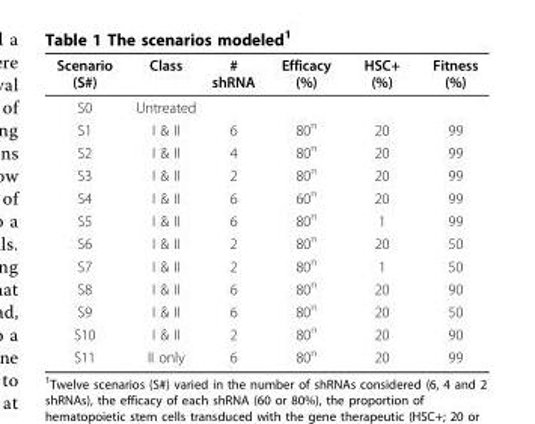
<table><thead><tr><td>Scenario (S#)</td><td>Class</td><td># shRNA</td><td>Efficacy (%)</td><td>HSC+ (%)</td><td>Fitness (%)</td></tr></thead><tbody><tr><td>S0</td><td>Untreated</td><td></td><td></td><td></td><td></td></tr><tr><td>S1</td><td>I &amp; II</td><td>6</td><td>80<sup>n</sup></td><td>20</td><td>99</td></tr><tr><td>S2</td><td>I &amp; II</td><td>4</td><td>80<sup>n</sup></td><td>20</td><td>99</td></tr><tr><td>S3</td><td>I &amp; II</td><td>2</td><td>80<sup>n</sup></td><td>20</td><td>99</td></tr><tr><td>S4</td><td>I &amp; II</td><td>6</td><td>60<sup>n</sup></td><td>20</td><td>99</td></tr><tr><td>S5</td><td>I &amp; II</td><td>6</td><td>80<sup>n</sup></td><td>1</td><td>99</td></tr><tr><td>S6</td><td>I &amp; II</td><td>2</td><td>80<sup>n</sup></td><td>20</td><td>50</td></tr><tr><td>S7</td><td>I &amp; II</td><td>2</td><td>80<sup>n</sup></td><td>1</td><td>50</td></tr><tr><td>S8</td><td>I &amp; II</td><td>6</td><td>80<sup>n</sup></td><td>20</td><td>90</td></tr><tr><td>S9</td><td>I &amp; II</td><td>6</td><td>80<sup>n</sup></td><td>20</td><td>50</td></tr><tr><td>S10</td><td>I &amp; II</td><td>2</td><td>80<sup>n</sup></td><td>20</td><td>90</td></tr><tr><td>S11</td><td>II only</td><td>6</td><td>80<sup>n</sup></td><td>20</td><td>99</td></tr></tbody></table>